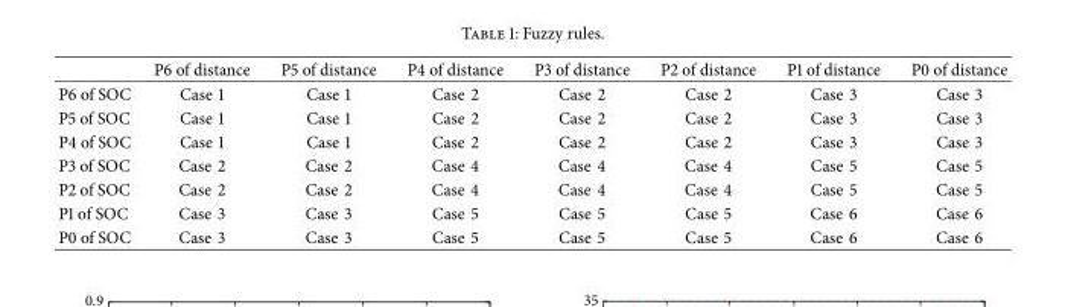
<table><thead><tr><td></td><td>P6 of distance</td><td>P5 of distance</td><td>P4 of distance</td><td>P3 of distance</td><td>P2 of distance</td><td>P1 of distance</td><td>P0 of distance</td></tr></thead><tbody><tr><td>P6 of SOC</td><td>Case 1</td><td>Case 1</td><td>Case 2</td><td>Case 2</td><td>Case 2</td><td>Case 3</td><td>Case 3</td></tr><tr><td>P5 of SOC</td><td>Case 1</td><td>Case 1</td><td>Case 2</td><td>Case 2</td><td>Case 2</td><td>Case 3</td><td>Case 3</td></tr><tr><td>P4 of SOC</td><td>Case 1</td><td>Case 1</td><td>Case 2</td><td>Case 2</td><td>Case 2</td><td>Case 3</td><td>Case 3</td></tr><tr><td>P3 of SOC</td><td>Case 2</td><td>Case 2</td><td>Case 4</td><td>Case 4</td><td>Case 4</td><td>Case 5</td><td>Case 5</td></tr><tr><td>P2 of SOC</td><td>Case 2</td><td>Case 2</td><td>Case 4</td><td>Case 4</td><td>Case 4</td><td>Case 5</td><td>Case 5</td></tr><tr><td>P1 of SOC</td><td>Case 3</td><td>Case 3</td><td>Case 5</td><td>Case 5</td><td>Case 5</td><td>Case 6</td><td>Case 6</td></tr><tr><td>P0 of SOC</td><td>Case 3</td><td>Case 3</td><td>Case 5</td><td>Case 5</td><td>Case 5</td><td>Case 6</td><td>Case 6</td></tr></tbody></table>